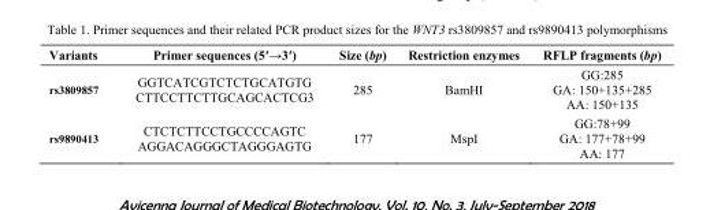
<table><thead><tr><td>Variants</td><td>Primer sequences (5′→3′)</td><td>Size (bp)</td><td>Restriction enzymes</td><td>RFLP fragments (bp)</td></tr></thead><tbody><tr><td rowspan="3">rs3809857</td><td rowspan="3">GGTCATCGTCTCTGCATGTG CTTCCTTCTTGCAGCACTCG3</td><td rowspan="3">285</td><td rowspan="3">BamHI</td><td>GG:285</td></tr><tr><td>GA: 150+135+285</td></tr><tr><td>AA: 150+135</td></tr><tr><td rowspan="3">rs9890413</td><td rowspan="3">CTCTCTTCCTGCCCCAGTC AGGACAGGGCTAGGGAGTG</td><td rowspan="3">177</td><td rowspan="3">MspI</td><td>GG:78+99</td></tr><tr><td>GA: 177+78+99</td></tr><tr><td>AA: 177</td></tr></tbody></table>